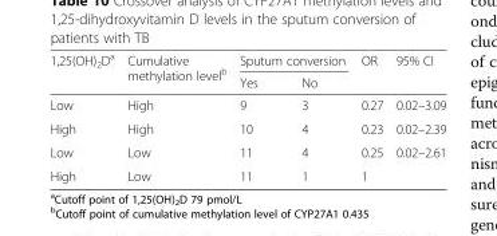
<table><thead><tr><td rowspan="2">1,25(OH)<sub>2</sub>D<sup>a</sup></td><td rowspan="2">Cumulative methylation level<sup>b</sup></td><td colspan="2">Sputum conversion</td><td rowspan="2">OR</td><td rowspan="2">95% CI</td></tr><tr><td>Yes</td><td>No</td></tr></thead><tbody><tr><td>Low</td><td>High</td><td>9</td><td>3</td><td>0.27</td><td>0.02–3.09</td></tr><tr><td>High</td><td>High</td><td>10</td><td>4</td><td>0.23</td><td>0.02–2.39</td></tr><tr><td>Low</td><td>Low</td><td>11</td><td>4</td><td>0.25</td><td>0.02–2.61</td></tr><tr><td>High</td><td>Low</td><td>11</td><td>1</td><td>1</td><td></td></tr></tbody></table>